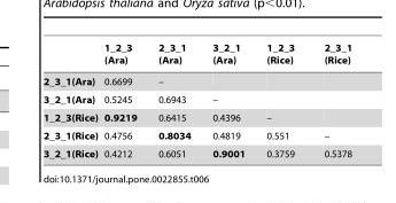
<table><thead><tr><td></td><td>1_2_3 (Ara)</td><td>2_3_1 (Ara)</td><td>3_2_1 (Ara)</td><td>1_2_3 (Rice)</td><td>2_3_1 (Rice)</td></tr></thead><tbody><tr><td>2_3_1(Ara)</td><td>0.6699</td><td>–</td><td></td><td></td><td></td></tr><tr><td>3_2_1(Ara)</td><td>0.5245</td><td>0.6943</td><td>–</td><td></td><td></td></tr><tr><td>1_2_3(Rice)</td><td>0.9219</td><td>0.6415</td><td>0.4396</td><td>–</td><td></td></tr><tr><td>2_3_1(Rice)</td><td>0.4756</td><td>0.8034</td><td>0.4819</td><td>0.551</td><td>–</td></tr><tr><td>3_2_1(Rice)</td><td>0.4212</td><td>0.6051</td><td>0.9001</td><td>0.3759</td><td>0.5378</td></tr></tbody></table>